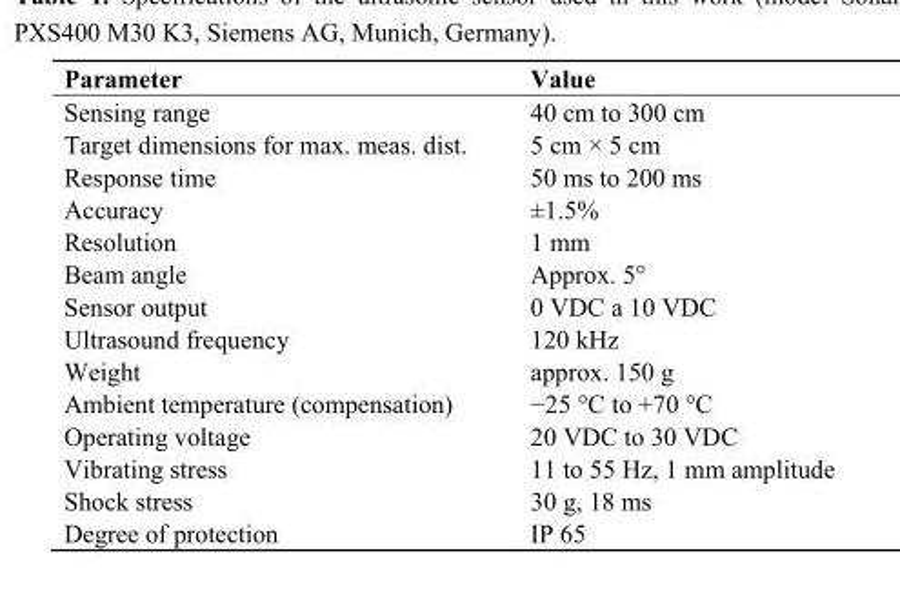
<table><thead><tr><td>Parameter</td><td>Value</td></tr></thead><tbody><tr><td>Sensing range</td><td>40 cm to 300 cm</td></tr><tr><td>Target dimensions for max. meas. dist.</td><td>5 cm × 5 cm</td></tr><tr><td>Response time</td><td>50 ms to 200 ms</td></tr><tr><td>Accuracy</td><td>±1.5%</td></tr><tr><td>Resolution</td><td>1 mm</td></tr><tr><td>Beam angle</td><td>Approx. 5°</td></tr><tr><td>Sensor output</td><td>0 VDC a 10 VDC</td></tr><tr><td>Ultrasound frequency</td><td>120 kHz</td></tr><tr><td>Weight</td><td>approx. 150 g</td></tr><tr><td>Ambient temperature (compensation)</td><td>−25 °C to +70 °C</td></tr><tr><td>Operating voltage</td><td>20 VDC to 30 VDC</td></tr><tr><td>Vibrating stress</td><td>11 to 55 Hz, 1 mm amplitude</td></tr><tr><td>Shock stress</td><td>30 g, 18 ms</td></tr><tr><td>Degree of protection</td><td>IP 65</td></tr></tbody></table>